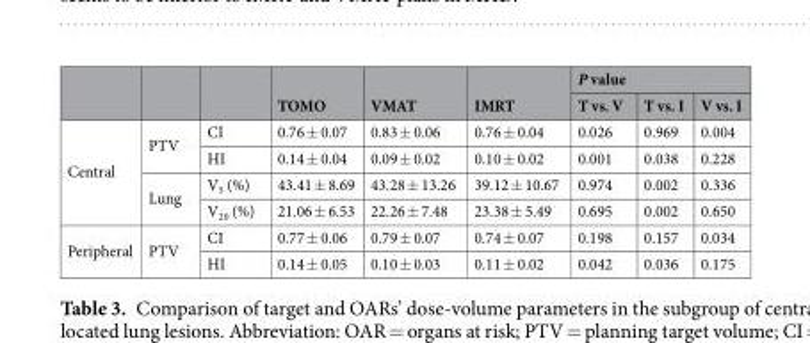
<table><thead><tr><td rowspan="2"></td><td rowspan="2"></td><td rowspan="2"></td><td rowspan="2">TOMO</td><td rowspan="2">VMAT</td><td rowspan="2">IMRT</td><td colspan="3">P value</td></tr><tr><td>T vs. V</td><td>T vs. I</td><td>V vs. I</td></tr></thead><tbody><tr><td rowspan="4">Central</td><td rowspan="2">PTV</td><td>CI</td><td>0.76 ± 0.07</td><td>0.83 ± 0.06</td><td>0.76 ± 0.04</td><td>0.026</td><td>0.969</td><td>0.004</td></tr><tr><td>HI</td><td>0.14 ± 0.04</td><td>0.09 ± 0.02</td><td>0.10 ± 0.02</td><td>0.001</td><td>0.038</td><td>0.228</td></tr><tr><td rowspan="2">Lung</td><td>V<sub>5</sub> (%)</td><td>43.41 ± 8.69</td><td>43.28 ± 13.26</td><td>39.12 ± 10.67</td><td>0.974</td><td>0.002</td><td>0.336</td></tr><tr><td>V<sub>20</sub> (%)</td><td>21.06 ± 6.53</td><td>22.26 ± 7.48</td><td>23.38 ± 5.49</td><td>0.695</td><td>0.002</td><td>0.650</td></tr><tr><td rowspan="2">Peripheral</td><td rowspan="2">PTV</td><td>CI</td><td>0.77 ± 0.06</td><td>0.79 ± 0.07</td><td>0.74 ± 0.07</td><td>0.198</td><td>0.157</td><td>0.034</td></tr><tr><td>HI</td><td>0.14 ± 0.05</td><td>0.10 ± 0.03</td><td>0.11 ± 0.02</td><td>0.042</td><td>0.036</td><td>0.175</td></tr></tbody></table>